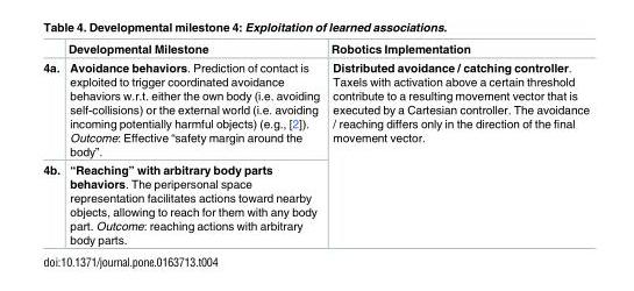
<table><thead><tr><td></td><td>Developmental Milestone</td><td>Robotics Implementation</td></tr></thead><tbody><tr><td>4a.</td><td>Avoidance behaviors. Prediction of contact is exploited to trigger coordinated avoidance behaviors w.r.t. either the own body (i.e. avoiding self-collisions) or the external world (i.e. avoiding incoming potentially harmful objects) (e.g., [2]). Outcome: Effective “safety margin around the body”.</td><td rowspan="2">Distributed avoidance / catching controller. Taxels with activation above a certain threshold contribute to a resulting movement vector that is executed by a Cartesian controller. The avoidance / reaching differs only in the direction of the final movement vector.</td></tr><tr><td>4b.</td><td>“Reaching” with arbitrary body parts behaviors. The peripersonal space representation facilitates actions toward nearby objects, allowing to reach for them with any body part. Outcome: reaching actions with arbitrary body parts.</td></tr></tbody></table>